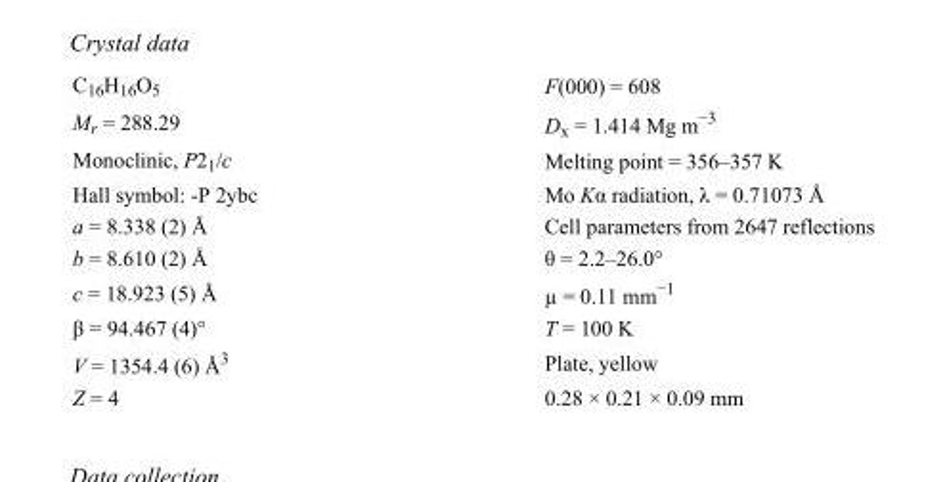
<table><tbody><tr><td>C<sub>16</sub>H<sub>16</sub>O<sub>5</sub></td><td>F(000) = 608</td></tr><tr><td>M<sub>r</sub> = 288.29</td><td>D<sub>x</sub> = 1.414 Mg m<sup>−3</sup></td></tr><tr><td>Monoclinic, P2<sub>1</sub>/c</td><td>Melting point = 356–357 K</td></tr><tr><td>Hall symbol: -P 2ybc</td><td>Mo Kα radiation, λ = 0.71073 Å</td></tr><tr><td>a = 8.338 (2) Å</td><td>Cell parameters from 2647 reflections</td></tr><tr><td>b = 8.610 (2) Å</td><td>θ = 2.2–26.0°</td></tr><tr><td>c = 18.923 (5) Å</td><td>µ = 0.11 mm<sup>−1</sup></td></tr><tr><td>β = 94.467 (4)°</td><td>T = 100 K</td></tr><tr><td>V = 1354.4 (6) Å<sup>3</sup></td><td>Plate, yellow</td></tr><tr><td>Z = 4</td><td>0.28 × 0.21 × 0.09 mm</td></tr></tbody></table>